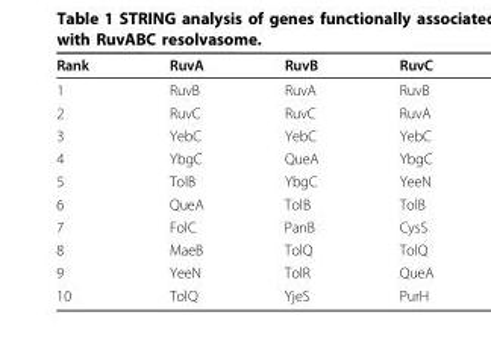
<table><thead><tr><td>Rank</td><td>RuvA</td><td>RuvB</td><td>RuvC</td></tr></thead><tbody><tr><td>1</td><td>RuvB</td><td>RuvA</td><td>RuvB</td></tr><tr><td>2</td><td>RuvC</td><td>RuvC</td><td>RuvA</td></tr><tr><td>3</td><td>YebC</td><td>YebC</td><td>YebC</td></tr><tr><td>4</td><td>YbgC</td><td>QueA</td><td>YbgC</td></tr><tr><td>5</td><td>TolB</td><td>YbgC</td><td>YeeN</td></tr><tr><td>6</td><td>QueA</td><td>TolB</td><td>TolB</td></tr><tr><td>7</td><td>FolC</td><td>PanB</td><td>CysS</td></tr><tr><td>8</td><td>MaeB</td><td>TolQ</td><td>TolQ</td></tr><tr><td>9</td><td>YeeN</td><td>TolR</td><td>QueA</td></tr><tr><td>10</td><td>TolQ</td><td>YjeS</td><td>PurH</td></tr></tbody></table>